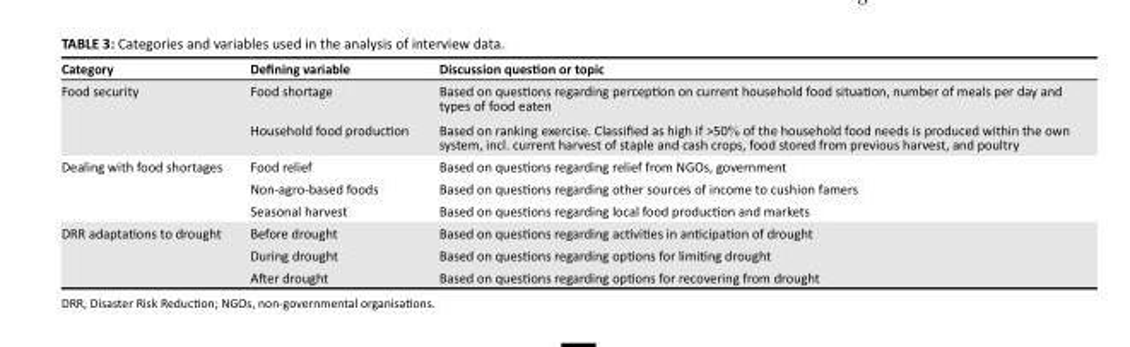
<table><thead><tr><td>Category</td><td>Defining variable</td><td>Discussion question or topic</td></tr></thead><tbody><tr><td rowspan="2">Food security</td><td>Food shortage</td><td>Based on questions regarding perception on current household food situation, number of meals per day and types of food eaten</td></tr><tr><td>Household food production</td><td>Based on ranking exercise. Classified as high if &gt;50% of the household food needs is produced within the own system, incl. current harvest of staple and cash crops, food stored from previous harvest, and poultry</td></tr><tr><td rowspan="3">Dealing with food shortages</td><td>Food relief</td><td>Based on questions regarding relief from NGOs, government</td></tr><tr><td>Non-agro-based foods</td><td>Based on questions regarding other sources of income to cushion famers</td></tr><tr><td>Seasonal harvest</td><td>Based on questions regarding local food production and markets</td></tr><tr><td rowspan="3">DRR adaptations to drought</td><td>Before drought</td><td>Based on questions regarding activities in anticipation of drought</td></tr><tr><td>During drought</td><td>Based on questions regarding options for limiting drought</td></tr><tr><td>After drought</td><td>Based on questions regarding options for recovering from drought</td></tr></tbody></table>